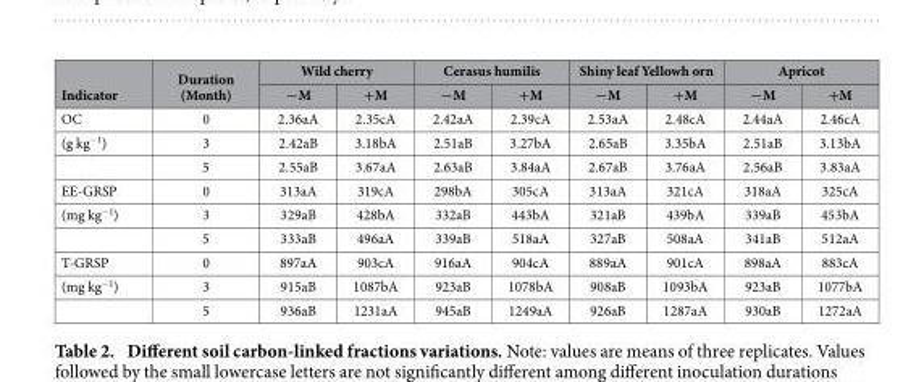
<table><thead><tr><td rowspan="2">Indicator</td><td rowspan="2">Duration (Month)</td><td colspan="2">Wild cherry</td><td colspan="2">Cerasus humilis</td><td colspan="2">Shiny leaf Yellowh orn</td><td colspan="2">Apricot</td></tr><tr><td>−M</td><td>+M</td><td>−M</td><td>+M</td><td>−M</td><td>+M</td><td>−M</td><td>+M</td></tr></thead><tbody><tr><td>OC</td><td>0</td><td>2.36aA</td><td>2.35cA</td><td>2.42aA</td><td>2.39cA</td><td>2.53aA</td><td>2.48cA</td><td>2.44aA</td><td>2.46cA</td></tr><tr><td rowspan="2">(g kg<sup>−1</sup>)</td><td>3</td><td>2.42aB</td><td>3.18bA</td><td>2.51aB</td><td>3.27bA</td><td>2.65aB</td><td>3.35bA</td><td>2.51aB</td><td>3.13bA</td></tr><tr><td>5</td><td>2.55aB</td><td>3.67aA</td><td>2.63aB</td><td>3.84aA</td><td>2.67aB</td><td>3.76aA</td><td>2.56aB</td><td>3.83aA</td></tr><tr><td>EE-GRSP</td><td>0</td><td>313aA</td><td>319cA</td><td>298bA</td><td>305cA</td><td>313aA</td><td>321cA</td><td>318aA</td><td>325cA</td></tr><tr><td rowspan="2">(mg kg<sup>−1</sup>)</td><td>3</td><td>329aB</td><td>428bA</td><td>332aB</td><td>443bA</td><td>321aB</td><td>439bA</td><td>339aB</td><td>453bA</td></tr><tr><td>5</td><td>333aB</td><td>496aA</td><td>339aB</td><td>518aA</td><td>327aB</td><td>508aA</td><td>341aB</td><td>512aA</td></tr><tr><td>T-GRSP</td><td>0</td><td>897aA</td><td>903cA</td><td>916aA</td><td>904cA</td><td>889aA</td><td>901cA</td><td>898aA</td><td>883cA</td></tr><tr><td rowspan="2">(mg kg<sup>−1</sup>)</td><td>3</td><td>915aB</td><td>1087bA</td><td>923aB</td><td>1078bA</td><td>908aB</td><td>1093bA</td><td>923aB</td><td>1077bA</td></tr><tr><td>5</td><td>936aB</td><td>1231aA</td><td>945aB</td><td>1249aA</td><td>926aB</td><td>1287aA</td><td>930aB</td><td>1272aA</td></tr></tbody></table>